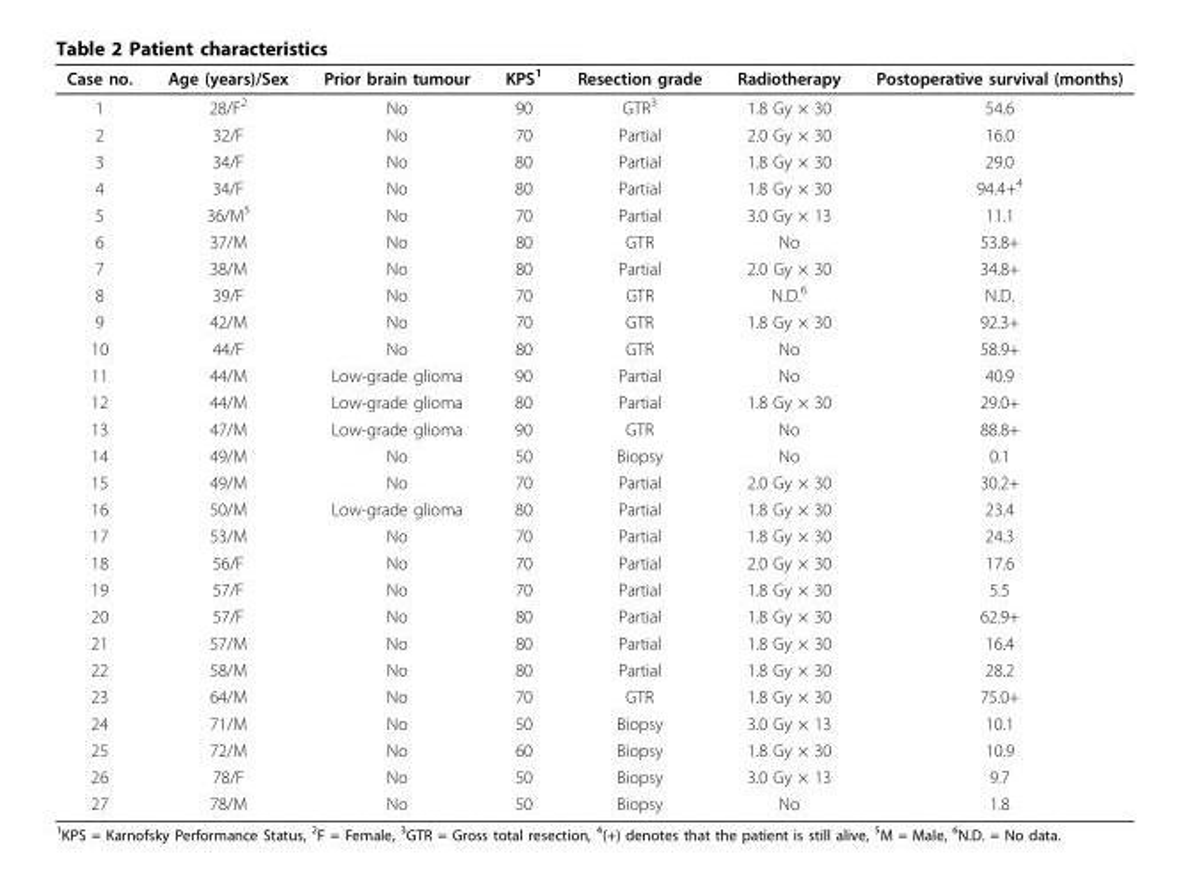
<table><thead><tr><td>Case no.</td><td>Age (years)/Sex</td><td>Prior brain tumour</td><td>KPS<sup>1</sup></td><td>Resection grade</td><td>Radiotherapy</td><td>Postoperative survival (months)</td></tr></thead><tbody><tr><td>1</td><td>28/F<sup>2</sup></td><td>No</td><td>90</td><td>GTR<sup>3</sup></td><td>1.8 Gy × 30</td><td>54.6</td></tr><tr><td>2</td><td>32/F</td><td>No</td><td>70</td><td>Partial</td><td>2.0 Gy × 30</td><td>16.0</td></tr><tr><td>3</td><td>34/F</td><td>No</td><td>80</td><td>Partial</td><td>1.8 Gy × 30</td><td>29.0</td></tr><tr><td>4</td><td>34/F</td><td>No</td><td>80</td><td>Partial</td><td>1.8 Gy × 30</td><td>94.4+<sup>4</sup></td></tr><tr><td>5</td><td>36/M<sup>5</sup></td><td>No</td><td>70</td><td>Partial</td><td>3.0 Gy × 13</td><td>11.1</td></tr><tr><td>6</td><td>37/M</td><td>No</td><td>80</td><td>GTR</td><td>No</td><td>53.8+</td></tr><tr><td>7</td><td>38/M</td><td>No</td><td>80</td><td>Partial</td><td>2.0 Gy × 30</td><td>34.8+</td></tr><tr><td>8</td><td>39/F</td><td>No</td><td>70</td><td>GTR</td><td>N.D.<sup>6</sup></td><td>N.D.</td></tr><tr><td>9</td><td>42/M</td><td>No</td><td>70</td><td>GTR</td><td>1.8 Gy × 30</td><td>92.3+</td></tr><tr><td>10</td><td>44/F</td><td>No</td><td>80</td><td>GTR</td><td>No</td><td>58.9+</td></tr><tr><td>11</td><td>44/M</td><td>Low-grade glioma</td><td>90</td><td>Partial</td><td>No</td><td>40.9</td></tr><tr><td>12</td><td>44/M</td><td>Low-grade glioma</td><td>80</td><td>Partial</td><td>1.8 Gy × 30</td><td>29.0+</td></tr><tr><td>13</td><td>47/M</td><td>Low-grade glioma</td><td>90</td><td>GTR</td><td>No</td><td>88.8+</td></tr><tr><td>14</td><td>49/M</td><td>No</td><td>50</td><td>Biopsy</td><td>No</td><td>0.1</td></tr><tr><td>15</td><td>49/M</td><td>No</td><td>70</td><td>Partial</td><td>2.0 Gy × 30</td><td>30.2+</td></tr><tr><td>16</td><td>50/M</td><td>Low-grade glioma</td><td>80</td><td>Partial</td><td>1.8 Gy × 30</td><td>23.4</td></tr><tr><td>17</td><td>53/M</td><td>No</td><td>70</td><td>Partial</td><td>1.8 Gy × 30</td><td>24.3</td></tr><tr><td>18</td><td>56/F</td><td>No</td><td>70</td><td>Partial</td><td>2.0 Gy × 30</td><td>17.6</td></tr><tr><td>19</td><td>57/F</td><td>No</td><td>70</td><td>Partial</td><td>1.8 Gy × 30</td><td>5.5</td></tr><tr><td>20</td><td>57/F</td><td>No</td><td>80</td><td>Partial</td><td>1.8 Gy × 30</td><td>62.9+</td></tr><tr><td>21</td><td>57/M</td><td>No</td><td>80</td><td>Partial</td><td>1.8 Gy × 30</td><td>16.4</td></tr><tr><td>22</td><td>58/M</td><td>No</td><td>80</td><td>Partial</td><td>1.8 Gy × 30</td><td>28.2</td></tr><tr><td>23</td><td>64/M</td><td>No</td><td>70</td><td>GTR</td><td>1.8 Gy × 30</td><td>75.0+</td></tr><tr><td>24</td><td>71/M</td><td>No</td><td>50</td><td>Biopsy</td><td>3.0 Gy × 13</td><td>10.1</td></tr><tr><td>25</td><td>72/M</td><td>No</td><td>60</td><td>Biopsy</td><td>1.8 Gy × 30</td><td>10.9</td></tr><tr><td>26</td><td>78/F</td><td>No</td><td>50</td><td>Biopsy</td><td>3.0 Gy × 13</td><td>9.7</td></tr><tr><td>27</td><td>78/M</td><td>No</td><td>50</td><td>Biopsy</td><td>No</td><td>1.8</td></tr></tbody></table>